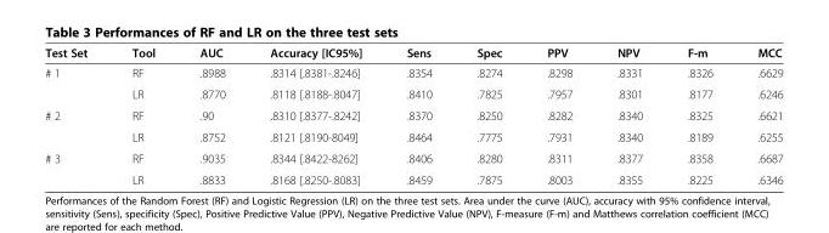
<table><thead><tr><td>Test Set</td><td>Tool</td><td>AUC</td><td>Accuracy [IC95%]</td><td>Sens</td><td>Spec</td><td>PPV</td><td>NPV</td><td>F-m</td><td>MCC</td></tr></thead><tbody><tr><td rowspan="2"># 1</td><td>RF</td><td>.8988</td><td>.8314 [.8381-.8246]</td><td>.8354</td><td>.8274</td><td>.8298</td><td>.8331</td><td>.8326</td><td>.6629</td></tr><tr><td>LR</td><td>.8770</td><td>.8118 [.8188-.8047]</td><td>.8410</td><td>.7825</td><td>.7957</td><td>.8301</td><td>.8177</td><td>.6246</td></tr><tr><td rowspan="2"># 2</td><td>RF</td><td>.90</td><td>.8310 [.8377-.8242]</td><td>.8370</td><td>.8250</td><td>.8282</td><td>.8340</td><td>.8325</td><td>.6621</td></tr><tr><td>LR</td><td>.8752</td><td>.8121 [.8190-8049]</td><td>.8464</td><td>.7775</td><td>.7931</td><td>.8340</td><td>.8189</td><td>.6255</td></tr><tr><td rowspan="2"># 3</td><td>RF</td><td>.9035</td><td>.8344 [.8422-8262]</td><td>.8406</td><td>.8280</td><td>.8311</td><td>.8377</td><td>.8358</td><td>.6687</td></tr><tr><td>LR</td><td>.8833</td><td>.8168 [.8250-.8083]</td><td>.8459</td><td>.7875</td><td>.8003</td><td>.8355</td><td>.8225</td><td>.6346</td></tr></tbody></table>